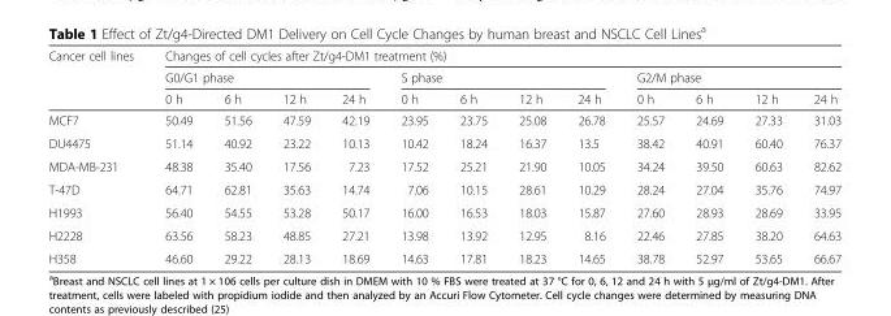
<table><thead><tr><td rowspan="3">Cancer cell lines</td><td colspan="12">Changes of cell cycles after Zt/g4-DM1 treatment (%)</td></tr><tr><td colspan="4">G0/G1 phase</td><td colspan="4">S phase</td><td colspan="4">G2/M phase</td></tr><tr><td>0 h</td><td>6 h</td><td>12 h</td><td>24 h</td><td>0 h</td><td>6 h</td><td>12 h</td><td>24 h</td><td>0 h</td><td>6 h</td><td>12 h</td><td>24 h</td></tr></thead><tbody><tr><td>MCF7</td><td>50.49</td><td>51.56</td><td>47.59</td><td>42.19</td><td>23.95</td><td>23.75</td><td>25.08</td><td>26.78</td><td>25.57</td><td>24.69</td><td>27.33</td><td>31.03</td></tr><tr><td>DU4475</td><td>51.14</td><td>40.92</td><td>23.22</td><td>10.13</td><td>10.42</td><td>18.24</td><td>16.37</td><td>13.5</td><td>38.42</td><td>40.91</td><td>60.40</td><td>76.37</td></tr><tr><td>MDA-MB-231</td><td>48.38</td><td>35.40</td><td>17.56</td><td>7.23</td><td>17.52</td><td>25.21</td><td>21.90</td><td>10.05</td><td>34.24</td><td>39.50</td><td>60.63</td><td>82.62</td></tr><tr><td>T-47D</td><td>64.71</td><td>62.81</td><td>35.63</td><td>14.74</td><td>7.06</td><td>10.15</td><td>28.61</td><td>10.29</td><td>28.24</td><td>27.04</td><td>35.76</td><td>74.97</td></tr><tr><td>H1993</td><td>56.40</td><td>54.55</td><td>53.28</td><td>50.17</td><td>16.00</td><td>16.53</td><td>18.03</td><td>15.87</td><td>27.60</td><td>28.93</td><td>28.69</td><td>33.95</td></tr><tr><td>H2228</td><td>63.56</td><td>58.23</td><td>48.85</td><td>27.21</td><td>13.98</td><td>13.92</td><td>12.95</td><td>8.16</td><td>22.46</td><td>27.85</td><td>38.20</td><td>64.63</td></tr><tr><td>H358</td><td>46.60</td><td>29.22</td><td>28.13</td><td>18.69</td><td>14.63</td><td>17.81</td><td>18.23</td><td>14.65</td><td>38.78</td><td>52.97</td><td>53.65</td><td>66.67</td></tr></tbody></table>